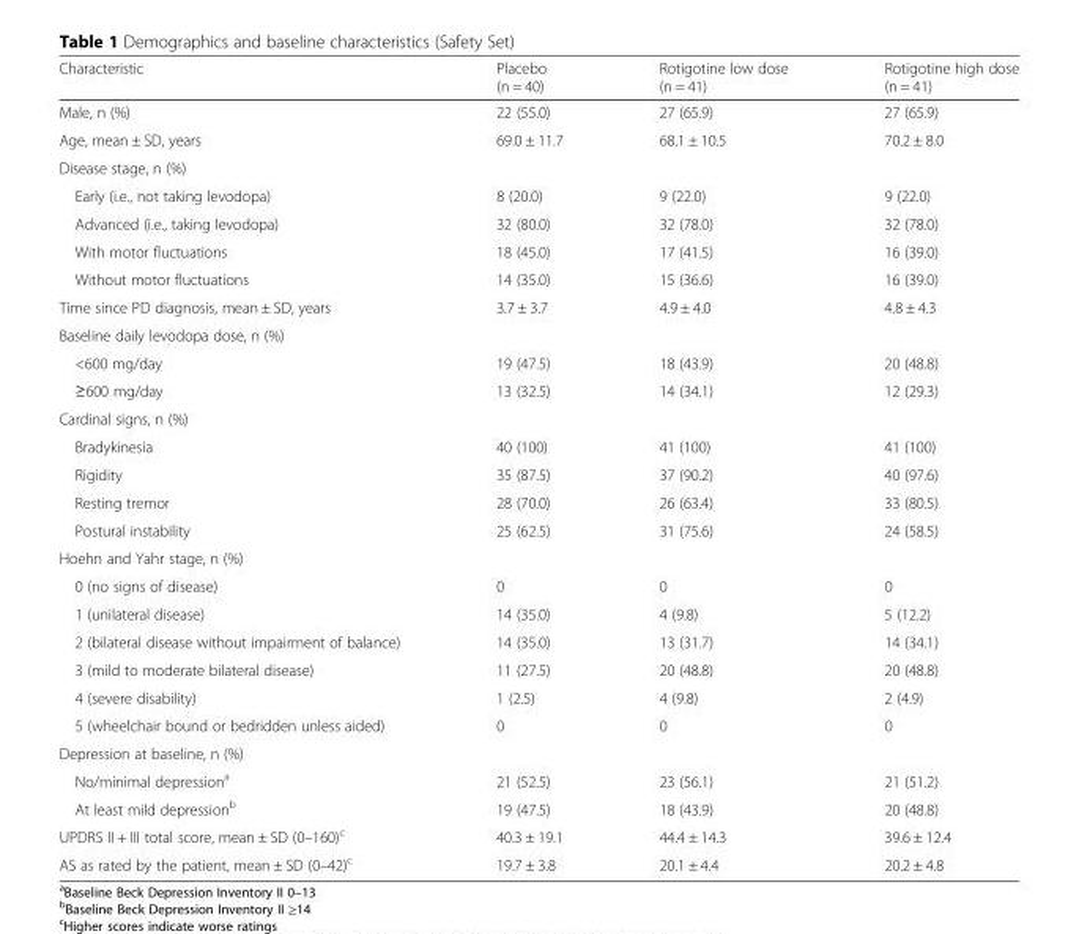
<table><thead><tr><td>Characteristic</td><td>Placebo (n = 40)</td><td>Rotigotine low dose (n = 41)</td><td>Rotigotine high dose (n = 41)</td></tr></thead><tbody><tr><td>Male, n (%)</td><td>22 (55.0)</td><td>27 (65.9)</td><td>27 (65.9)</td></tr><tr><td>Age, mean ± SD, years</td><td>69.0 ± 11.7</td><td>68.1 ± 10.5</td><td>70.2 ± 8.0</td></tr><tr><td colspan="4">Disease stage, n (%)</td></tr><tr><td>Early (i.e., not taking levodopa)</td><td>8 (20.0)</td><td>9 (22.0)</td><td>9 (22.0)</td></tr><tr><td>Advanced (i.e., taking levodopa)</td><td>32 (80.0)</td><td>32 (78.0)</td><td>32 (78.0)</td></tr><tr><td>With motor fluctuations</td><td>18 (45.0)</td><td>17 (41.5)</td><td>16 (39.0)</td></tr><tr><td>Without motor fluctuations</td><td>14 (35.0)</td><td>15 (36.6)</td><td>16 (39.0)</td></tr><tr><td>Time since PD diagnosis, mean ± SD, years</td><td>3.7 ± 3.7</td><td>4.9 ± 4.0</td><td>4.8 ± 4.3</td></tr><tr><td colspan="4">Baseline daily levodopa dose, n (%)</td></tr><tr><td>&lt;600 mg/day</td><td>19 (47.5)</td><td>18 (43.9)</td><td>20 (48.8)</td></tr><tr><td>≥600 mg/day</td><td>13 (32.5)</td><td>14 (34.1)</td><td>12 (29.3)</td></tr><tr><td colspan="4">Cardinal signs, n (%)</td></tr><tr><td>Bradykinesia</td><td>40 (100)</td><td>41 (100)</td><td>41 (100)</td></tr><tr><td>Rigidity</td><td>35 (87.5)</td><td>37 (90.2)</td><td>40 (97.6)</td></tr><tr><td>Resting tremor</td><td>28 (70.0)</td><td>26 (63.4)</td><td>33 (80.5)</td></tr><tr><td>Postural instability</td><td>25 (62.5)</td><td>31 (75.6)</td><td>24 (58.5)</td></tr><tr><td colspan="4">Hoehn and Yahr stage, n (%)</td></tr><tr><td>0 (no signs of disease)</td><td>0</td><td>0</td><td>0</td></tr><tr><td>1 (unilateral disease)</td><td>14 (35.0)</td><td>4 (9.8)</td><td>5 (12.2)</td></tr><tr><td>2 (bilateral disease without impairment of balance)</td><td>14 (35.0)</td><td>13 (31.7)</td><td>14 (34.1)</td></tr><tr><td>3 (mild to moderate bilateral disease)</td><td>11 (27.5)</td><td>20 (48.8)</td><td>20 (48.8)</td></tr><tr><td>4 (severe disability)</td><td>1 (2.5)</td><td>4 (9.8)</td><td>2 (4.9)</td></tr><tr><td>5 (wheelchair bound or bedridden unless aided)</td><td>0</td><td>0</td><td>0</td></tr><tr><td colspan="4">Depression at baseline, n (%)</td></tr><tr><td>No/minimal depression<sup>a</sup></td><td>21 (52.5)</td><td>23 (56.1)</td><td>21 (51.2)</td></tr><tr><td>At least mild depression<sup>b</sup></td><td>19 (47.5)</td><td>18 (43.9)</td><td>20 (48.8)</td></tr><tr><td>UPDRS II + III total score, mean ± SD (0–160)<sup>c</sup></td><td>40.3 ± 19.1</td><td>44.4 ± 14.3</td><td>39.6 ± 12.4</td></tr><tr><td>AS as rated by the patient, mean ± SD (0–42)<sup>c</sup></td><td>19.7 ± 3.8</td><td>20.1 ± 4.4</td><td>20.2 ± 4.8</td></tr></tbody></table>